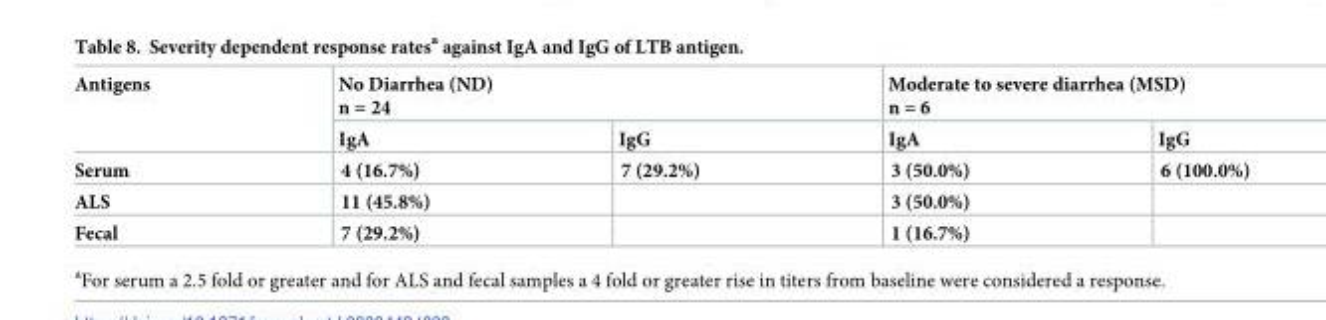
<table><thead><tr><td rowspan="2">Antigens</td><td colspan="2">No Diarrhea (ND) n = 24</td><td colspan="2">Moderate to severe diarrhea (MSD) n = 6</td></tr><tr><td>IgA</td><td>IgG</td><td>IgA</td><td>IgG</td></tr></thead><tbody><tr><td>Serum</td><td>4 (16.7%)</td><td>7 (29.2%)</td><td>3 (50.0%)</td><td>6 (100.0%)</td></tr><tr><td>ALS</td><td>11 (45.8%)</td><td></td><td>3 (50.0%)</td><td></td></tr><tr><td>Fecal</td><td>7 (29.2%)</td><td></td><td>1 (16.7%)</td><td></td></tr></tbody></table>